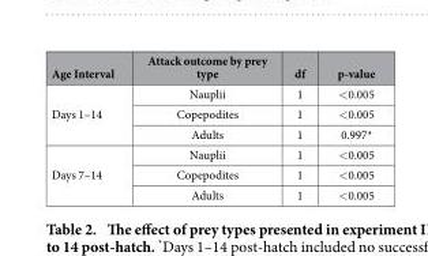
<table><thead><tr><td>Age Interval</td><td>Attack outcome by prey type</td><td>df</td><td>p-value</td></tr></thead><tbody><tr><td rowspan="3">Days 1–14</td><td>Nauplii</td><td>1</td><td>&lt; 0.005</td></tr><tr><td>Copepodites</td><td>1</td><td>&lt; 0.005</td></tr><tr><td>Adults</td><td>1</td><td>0.997*</td></tr><tr><td rowspan="3">Days 7–14</td><td>Nauplii</td><td>1</td><td>&lt; 0.005</td></tr><tr><td>Copepodites</td><td>1</td><td>&lt; 0.005</td></tr><tr><td>Adults</td><td>1</td><td>&lt; 0.005</td></tr></tbody></table>